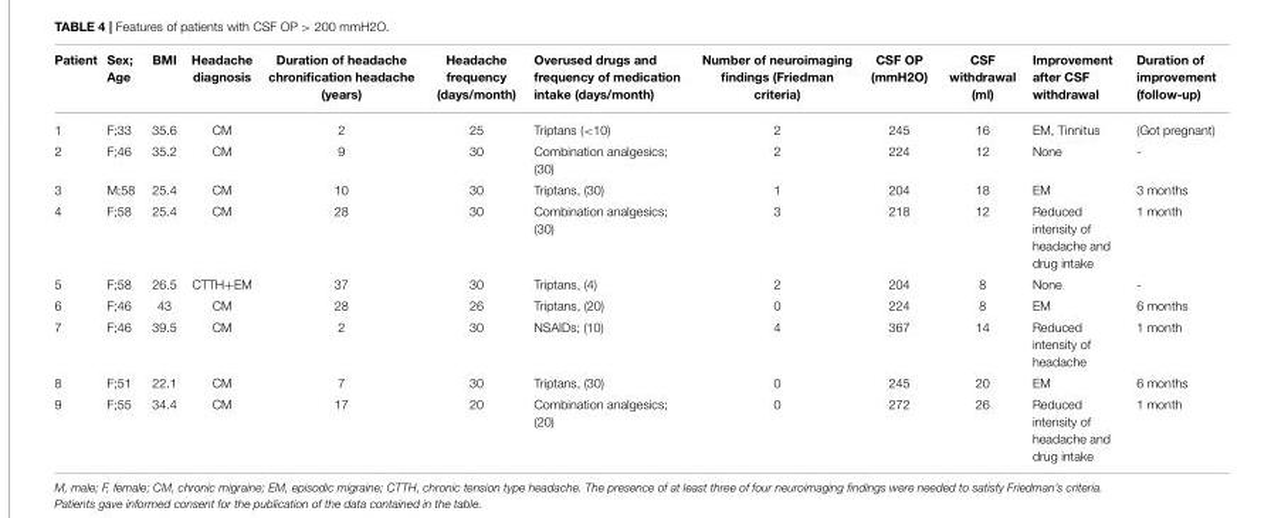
<table><thead><tr><td>Patient</td><td>Sex; Age</td><td>BMI</td><td>Headache diagnosis</td><td>Duration of headache chronification headache (years)</td><td>Headache frequency (days/month)</td><td>Overused drugs and frequency of medication intake (days/month)</td><td>Number of neuroimaging findings (Friedman criteria)</td><td>CSF OP (mmH2O)</td><td>CSF withdrawal (ml)</td><td>Improvement after CSF withdrawal</td><td>Duration of improvement (follow-up)</td></tr></thead><tbody><tr><td>1</td><td>F;33</td><td>35.6</td><td>CM</td><td>2</td><td>25</td><td>Triptans (&lt;10)</td><td>2</td><td>245</td><td>16</td><td>EM, Tinnitus</td><td>(Got pregnant)</td></tr><tr><td>2</td><td>F;46</td><td>35.2</td><td>CM</td><td>9</td><td>30</td><td>Combination analgesics; (30)</td><td>2</td><td>224</td><td>12</td><td>None</td><td>-</td></tr><tr><td>3</td><td>M;58</td><td>25.4</td><td>CM</td><td>10</td><td>30</td><td>Triptans, (30)</td><td>1</td><td>204</td><td>18</td><td>EM</td><td>3 months</td></tr><tr><td>4</td><td>F;58</td><td>25.4</td><td>CM</td><td>28</td><td>30</td><td>Combination analgesics; (30)</td><td>3</td><td>218</td><td>12</td><td>Reduced intensity of headache and drug intake</td><td>1 month</td></tr><tr><td>5</td><td>F;58</td><td>26.5</td><td>CTTH+EM</td><td>37</td><td>30</td><td>Triptans, (4)</td><td>2</td><td>204</td><td>8</td><td>None</td><td>-</td></tr><tr><td>6</td><td>F;46</td><td>43</td><td>CM</td><td>28</td><td>26</td><td>Triptans, (20)</td><td>0</td><td>224</td><td>8</td><td>EM</td><td>6 months</td></tr><tr><td>7</td><td>F;46</td><td>39.5</td><td>CM</td><td>2</td><td>30</td><td>NSAIDs; (10)</td><td>4</td><td>367</td><td>14</td><td>Reduced intensity of headache</td><td>1 month</td></tr><tr><td>8</td><td>F;51</td><td>22.1</td><td>CM</td><td>7</td><td>30</td><td>Triptans, (30)</td><td>0</td><td>245</td><td>20</td><td>EM</td><td>6 months</td></tr><tr><td>9</td><td>F;55</td><td>34.4</td><td>CM</td><td>17</td><td>20</td><td>Combination analgesics; (20)</td><td>0</td><td>272</td><td>26</td><td>Reduced intensity of headache and drug intake</td><td>1 month</td></tr></tbody></table>